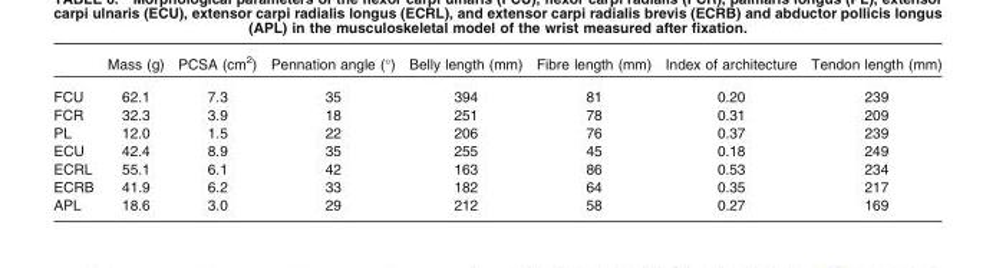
<table><thead><tr><td></td><td>Mass (g)</td><td>PCSA (cm<sup>2</sup>)</td><td>Pennation angle (°)</td><td>Belly length (mm)</td><td>Fibre length (mm)</td><td>Index of architecture</td><td>Tendon length (mm)</td></tr></thead><tbody><tr><td>FCU</td><td>62.1</td><td>7.3</td><td>35</td><td>394</td><td>81</td><td>0.20</td><td>239</td></tr><tr><td>FCR</td><td>32.3</td><td>3.9</td><td>18</td><td>251</td><td>78</td><td>0.31</td><td>209</td></tr><tr><td>PL</td><td>12.0</td><td>1.5</td><td>22</td><td>206</td><td>76</td><td>0.37</td><td>239</td></tr><tr><td>ECU</td><td>42.4</td><td>8.9</td><td>35</td><td>255</td><td>45</td><td>0.18</td><td>249</td></tr><tr><td>ECRL</td><td>55.1</td><td>6.1</td><td>42</td><td>163</td><td>86</td><td>0.53</td><td>234</td></tr><tr><td>ECRB</td><td>41.9</td><td>6.2</td><td>33</td><td>182</td><td>64</td><td>0.35</td><td>217</td></tr><tr><td>APL</td><td>18.6</td><td>3.0</td><td>29</td><td>212</td><td>58</td><td>0.27</td><td>169</td></tr></tbody></table>